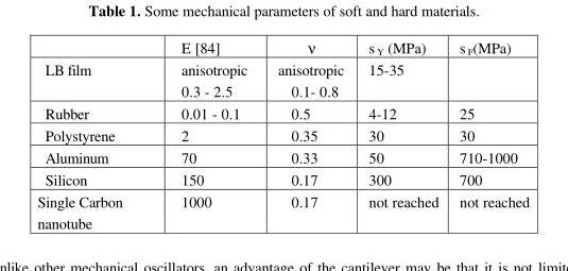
<table><thead><tr><td></td><td>E [84]</td><td>ν</td><td>s <sub>Y</sub> (MPa)</td><td>s <sub>F</sub>(MPa)</td></tr></thead><tbody><tr><td>LB film</td><td>anisotropic 0.3 - 2.5</td><td>anisotropic 0.1- 0.8</td><td>15-35</td><td></td></tr><tr><td>Rubber</td><td>0.01 - 0.1</td><td>0.5</td><td>4-12</td><td>25</td></tr><tr><td>Polystyrene</td><td>2</td><td>0.35</td><td>30</td><td>30</td></tr><tr><td>Aluminum</td><td>70</td><td>0.33</td><td>50</td><td>710-1000</td></tr><tr><td>Silicon</td><td>150</td><td>0.17</td><td>300</td><td>700</td></tr><tr><td>Single Carbon nanotube</td><td>1000</td><td>0.17</td><td>not reached</td><td>not reached</td></tr></tbody></table>